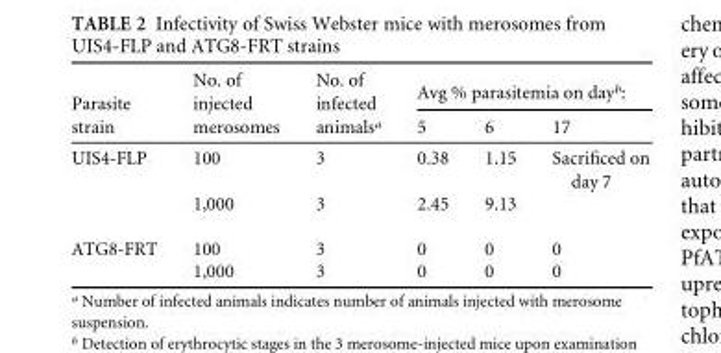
<table><thead><tr><td rowspan="2">Parasite strain</td><td rowspan="2">No. of injected merosomes</td><td rowspan="2">No. of infected animals<sup>a</sup></td><td colspan="3">Avg % parasitemia on day<sup>b</sup>:</td></tr><tr><td>5</td><td>6</td><td>17</td></tr></thead><tbody><tr><td rowspan="2">UIS4-FLP</td><td>100</td><td>3</td><td>0.38</td><td>1.15</td><td>Sacrificed on day 7</td></tr><tr><td>1,000</td><td>3</td><td>2.45</td><td>9.13</td><td></td></tr><tr><td rowspan="2">ATG8-FRT</td><td>100</td><td>3</td><td>0</td><td>0</td><td>0</td></tr><tr><td>1,000</td><td>3</td><td>0</td><td>0</td><td>0</td></tr></tbody></table>